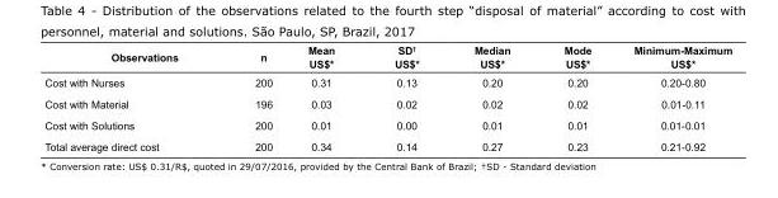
<table><tbody><tr><td>Observations</td><td>n</td><td>Mean US$*</td><td>SD<sup>†</sup> US$*</td><td>Median US$*</td><td>Mode US$*</td><td>Minimum-Maximum US$*</td></tr><tr><td>Cost with Nurses</td><td>200</td><td>0.31</td><td>0.13</td><td>0.20</td><td>0.20</td><td>0.20-0.80</td></tr><tr><td>Cost with Material</td><td>196</td><td>0.03</td><td>0.02</td><td>0.02</td><td>0.02</td><td>0.01-0.11</td></tr><tr><td>Cost with Solutions</td><td>200</td><td>0.01</td><td>0.00</td><td>0.01</td><td>0.01</td><td>0.01-0.01</td></tr><tr><td>Total average direct cost</td><td>200</td><td>0.34</td><td>0.14</td><td>0.27</td><td>0.23</td><td>0.21-0.92</td></tr></tbody></table>